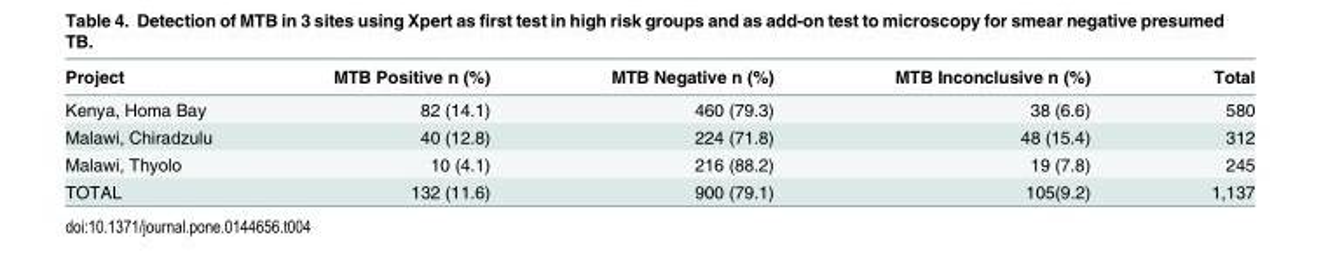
<table><thead><tr><td>Project</td><td>MTB Positive n (%)</td><td>MTB Negative n (%)</td><td>MTB Inconclusive n (%)</td><td>Total</td></tr></thead><tbody><tr><td>Kenya, Homa Bay</td><td>82 (14.1)</td><td>460 (79.3)</td><td>38 (6.6)</td><td>580</td></tr><tr><td>Malawi, Chiradzulu</td><td>40 (12.8)</td><td>224 (71.8)</td><td>48 (15.4)</td><td>312</td></tr><tr><td>Malawi, Thyolo</td><td>10 (4.1)</td><td>216 (88.2)</td><td>19 (7.8)</td><td>245</td></tr><tr><td>TOTAL</td><td>132 (11.6)</td><td>900 (79.1)</td><td>105(9.2)</td><td>1,137</td></tr></tbody></table>